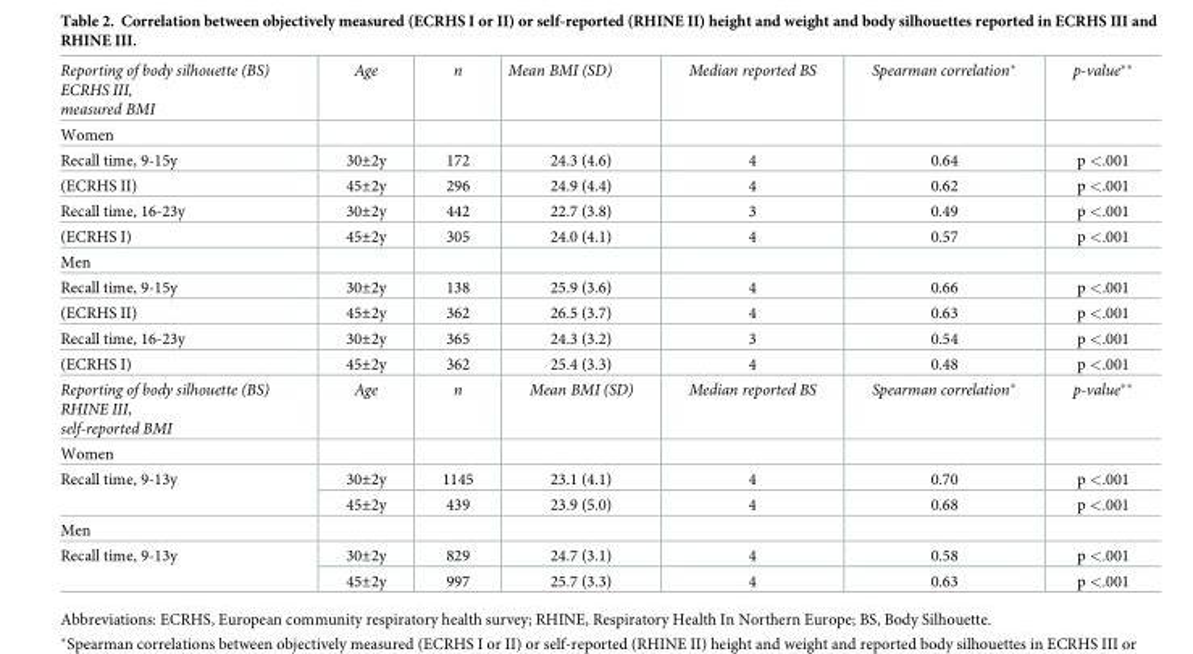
<table><tbody><tr><td>Reporting of body silhouette (BS) ECRHS III, measured BMI</td><td>Age</td><td>n</td><td>Mean BMI (SD)</td><td>Median reported BS</td><td>Spearman correlation*</td><td>p-value**</td></tr><tr><td colspan="7">Women</td></tr><tr><td>Recall time, 9-15y</td><td>30±2y</td><td>172</td><td>24.3 (4.6)</td><td>4</td><td>0.64</td><td>p &lt;.001</td></tr><tr><td>(ECRHS II)</td><td>45±2y</td><td>296</td><td>24.9 (4.4)</td><td>4</td><td>0.62</td><td>p &lt;.001</td></tr><tr><td>Recall time, 16-23y</td><td>30±2y</td><td>442</td><td>22.7 (3.8)</td><td>3</td><td>0.49</td><td>p &lt;.001</td></tr><tr><td>(ECRHS I)</td><td>45±2y</td><td>305</td><td>24.0 (4.1)</td><td>4</td><td>0.57</td><td>p &lt;.001</td></tr><tr><td colspan="7">Men</td></tr><tr><td>Recall time, 9-15y</td><td>30±2y</td><td>138</td><td>25.9 (3.6)</td><td>4</td><td>0.66</td><td>p &lt;.001</td></tr><tr><td>(ECRHS II)</td><td>45±2y</td><td>362</td><td>26.5 (3.7)</td><td>4</td><td>0.63</td><td>p &lt;.001</td></tr><tr><td>Recall time, 16-23y</td><td>30±2y</td><td>365</td><td>24.3 (3.2)</td><td>3</td><td>0.54</td><td>p &lt;.001</td></tr><tr><td>(ECRHS I)</td><td>45±2y</td><td>362</td><td>25.4 (3.3)</td><td>4</td><td>0.48</td><td>p &lt;.001</td></tr><tr><td>Reporting of body silhouette (BS) RHINE III, self-reported BMI</td><td>Age</td><td>n</td><td>Mean BMI (SD)</td><td>Median reported BS</td><td>Spearman correlation*</td><td>p-value**</td></tr><tr><td colspan="7">Women</td></tr><tr><td rowspan="2">Recall time, 9-13y</td><td>30±2y</td><td>1145</td><td>23.1 (4.1)</td><td>4</td><td>0.70</td><td>p &lt;.001</td></tr><tr><td>45±2y</td><td>439</td><td>23.9 (5.0)</td><td>4</td><td>0.68</td><td>p &lt;.001</td></tr><tr><td colspan="7">Men</td></tr><tr><td rowspan="2">Recall time, 9-13y</td><td>30±2y</td><td>829</td><td>24.7 (3.1)</td><td>4</td><td>0.58</td><td>p &lt;.001</td></tr><tr><td>45±2y</td><td>997</td><td>25.7 (3.3)</td><td>4</td><td>0.63</td><td>p &lt;.001</td></tr></tbody></table>